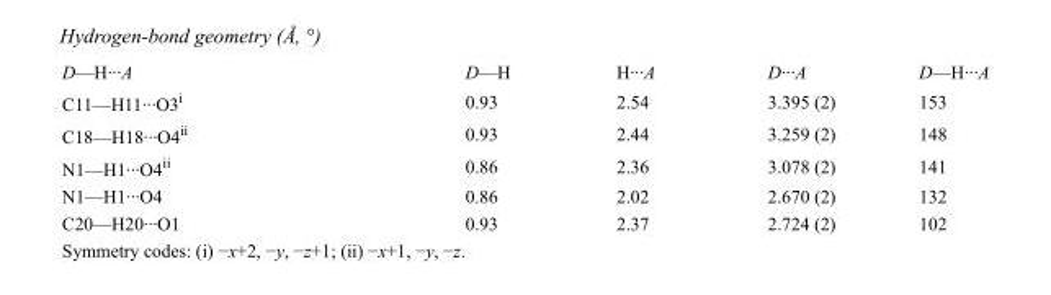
<table><tbody><tr><td>D—H···A</td><td>D—H</td><td>H···A</td><td>D···A</td><td>D—H···A</td></tr><tr><td>C11—H11···O3<sup>i</sup></td><td>0.93</td><td>2.54</td><td>3.395 (2)</td><td>153</td></tr><tr><td>C18—H18···O4<sup>ii</sup></td><td>0.93</td><td>2.44</td><td>3.259 (2)</td><td>148</td></tr><tr><td>N1—H1···O4<sup>ii</sup></td><td>0.86</td><td>2.36</td><td>3.078 (2)</td><td>141</td></tr><tr><td>N1—H1···O4</td><td>0.86</td><td>2.02</td><td>2.670 (2)</td><td>132</td></tr><tr><td>C20—H20···O1</td><td>0.93</td><td>2.37</td><td>2.724 (2)</td><td>102</td></tr></tbody></table>